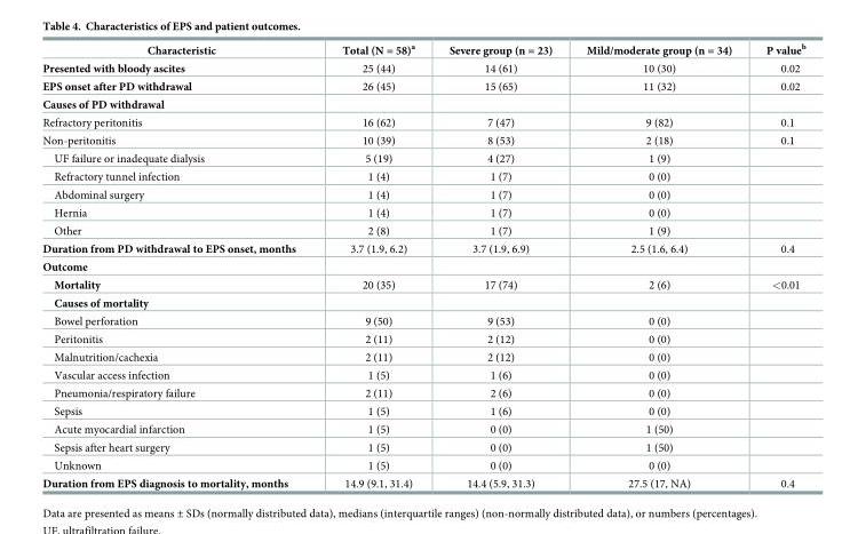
<table><thead><tr><td>Characteristic</td><td>Total (N = 58)<sup>a</sup></td><td>Severe group (n = 23)</td><td>Mild/moderate group (n = 34)</td><td>P value<sup>b</sup></td></tr></thead><tbody><tr><td>Presented with bloody ascites</td><td>25 (44)</td><td>14 (61)</td><td>10 (30)</td><td>0.02</td></tr><tr><td>EPS onset after PD withdrawal</td><td>26 (45)</td><td>15 (65)</td><td>11 (32)</td><td>0.02</td></tr><tr><td colspan="5">Causes of PD withdrawal</td></tr><tr><td>Refractory peritonitis</td><td>16 (62)</td><td>7 (47)</td><td>9 (82)</td><td>0.1</td></tr><tr><td>Non-peritonitis</td><td>10 (39)</td><td>8 (53)</td><td>2 (18)</td><td>0.1</td></tr><tr><td>UF failure or inadequate dialysis</td><td>5 (19)</td><td>4 (27)</td><td>1 (9)</td><td></td></tr><tr><td>Refractory tunnel infection</td><td>1 (4)</td><td>1 (7)</td><td>0 (0)</td><td></td></tr><tr><td>Abdominal surgery</td><td>1 (4)</td><td>1 (7)</td><td>0 (0)</td><td></td></tr><tr><td>Hernia</td><td>1 (4)</td><td>1 (7)</td><td>0 (0)</td><td></td></tr><tr><td>Other</td><td>2 (8)</td><td>1 (7)</td><td>1 (9)</td><td></td></tr><tr><td>Duration from PD withdrawal to EPS onset, months</td><td>3.7 (1.9, 6.2)</td><td>3.7 (1.9, 6.9)</td><td>2.5 (1.6, 6.4)</td><td>0.4</td></tr><tr><td colspan="5">Outcome</td></tr><tr><td>Mortality</td><td>20 (35)</td><td>17 (74)</td><td>2 (6)</td><td>&lt;0.01</td></tr><tr><td colspan="5">Causes of mortality</td></tr><tr><td>Bowel perforation</td><td>9 (50)</td><td>9 (53)</td><td>0 (0)</td><td></td></tr><tr><td>Peritonitis</td><td>2 (11)</td><td>2 (12)</td><td>0 (0)</td><td></td></tr><tr><td>Malnutrition/cachexia</td><td>2 (11)</td><td>2 (12)</td><td>0 (0)</td><td></td></tr><tr><td>Vascular access infection</td><td>1 (5)</td><td>1 (6)</td><td>0 (0)</td><td></td></tr><tr><td>Pneumonia/respiratory failure</td><td>2 (11)</td><td>2 (6)</td><td>0 (0)</td><td></td></tr><tr><td>Sepsis</td><td>1 (5)</td><td>1 (6)</td><td>0 (0)</td><td></td></tr><tr><td>Acute myocardial infarction</td><td>1 (5)</td><td>0 (0)</td><td>1 (50)</td><td></td></tr><tr><td>Sepsis after heart surgery</td><td>1 (5)</td><td>0 (0)</td><td>1 (50)</td><td></td></tr><tr><td>Unknown</td><td>1 (5)</td><td>0 (0)</td><td>0 (0)</td><td></td></tr><tr><td>Duration from EPS diagnosis to mortality, months</td><td>14.9 (9.1, 31.4)</td><td>14.4 (5.9, 31.3)</td><td>27.5 (17, NA)</td><td>0.4</td></tr></tbody></table>